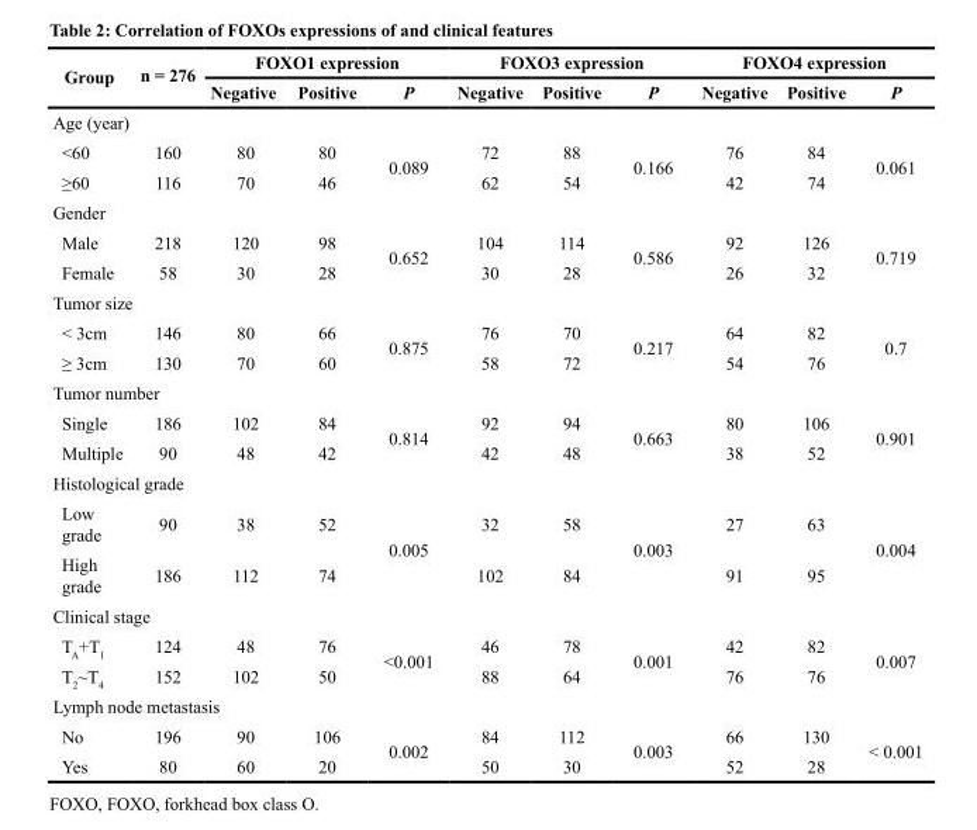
<table><thead><tr><td rowspan="2">Group</td><td rowspan="2">n = 276</td><td colspan="3">FOXO1 expression</td><td colspan="3">FOXO3 expression</td><td colspan="3">FOXO4 expression</td></tr><tr><td>Negative</td><td>Positive</td><td>P</td><td>Negative</td><td>Positive</td><td>P</td><td>Negative</td><td>Positive</td><td>P</td></tr></thead><tbody><tr><td colspan="11">Age (year)</td></tr><tr><td>&lt;60</td><td>160</td><td>80</td><td>80</td><td rowspan="2">0.089</td><td>72</td><td>88</td><td rowspan="2">0.166</td><td>76</td><td>84</td><td rowspan="2">0.061</td></tr><tr><td>≥60</td><td>116</td><td>70</td><td>46</td><td>62</td><td>54</td><td>42</td><td>74</td></tr><tr><td colspan="11">Gender</td></tr><tr><td>Male</td><td>218</td><td>120</td><td>98</td><td rowspan="2">0.652</td><td>104</td><td>114</td><td rowspan="2">0.586</td><td>92</td><td>126</td><td rowspan="2">0.719</td></tr><tr><td>Female</td><td>58</td><td>30</td><td>28</td><td>30</td><td>28</td><td>26</td><td>32</td></tr><tr><td colspan="11">Tumor size</td></tr><tr><td>&lt; 3cm</td><td>146</td><td>80</td><td>66</td><td rowspan="2">0.875</td><td>76</td><td>70</td><td rowspan="2">0.217</td><td>64</td><td>82</td><td rowspan="2">0.7</td></tr><tr><td>≥ 3cm</td><td>130</td><td>70</td><td>60</td><td>58</td><td>72</td><td>54</td><td>76</td></tr><tr><td colspan="11">Tumor number</td></tr><tr><td>Single</td><td>186</td><td>102</td><td>84</td><td rowspan="2">0.814</td><td>92</td><td>94</td><td rowspan="2">0.663</td><td>80</td><td>106</td><td rowspan="2">0.901</td></tr><tr><td>Multiple</td><td>90</td><td>48</td><td>42</td><td>42</td><td>48</td><td>38</td><td>52</td></tr><tr><td colspan="11">Histological grade</td></tr><tr><td>Low grade</td><td>90</td><td>38</td><td>52</td><td rowspan="2">0.005</td><td>32</td><td>58</td><td rowspan="2">0.003</td><td>27</td><td>63</td><td rowspan="2">0.004</td></tr><tr><td>High grade</td><td>186</td><td>112</td><td>74</td><td>102</td><td>84</td><td>91</td><td>95</td></tr><tr><td colspan="11">Clinical stage</td></tr><tr><td>T<sub>A</sub>+T<sub>1</sub></td><td>124</td><td>48</td><td>76</td><td rowspan="2">&lt;0.001</td><td>46</td><td>78</td><td rowspan="2">0.001</td><td>42</td><td>82</td><td rowspan="2">0.007</td></tr><tr><td>T<sub>2</sub>~T<sub>4</sub></td><td>152</td><td>102</td><td>50</td><td>88</td><td>64</td><td>76</td><td>76</td></tr><tr><td colspan="11">Lymph node metastasis</td></tr><tr><td>No</td><td>196</td><td>90</td><td>106</td><td rowspan="2">0.002</td><td>84</td><td>112</td><td rowspan="2">0.003</td><td>66</td><td>130</td><td rowspan="2">&lt; 0.001</td></tr><tr><td>Yes</td><td>80</td><td>60</td><td>20</td><td>50</td><td>30</td><td>52</td><td>28</td></tr></tbody></table>